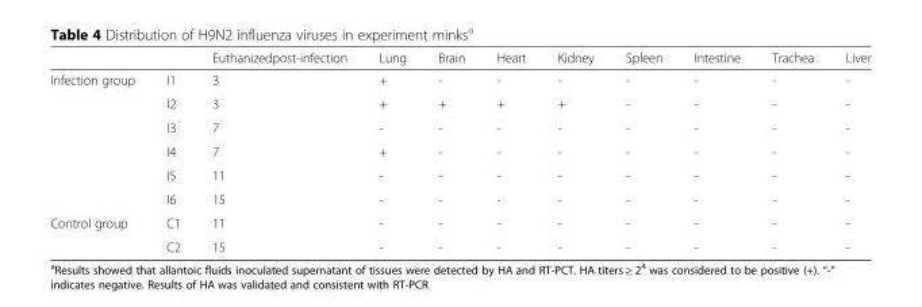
<table><thead><tr><td></td><td></td><td>Euthanizedpost-infection</td><td>Lung</td><td>Brain</td><td>Heart</td><td>Kidney</td><td>Spleen</td><td>Intestine</td><td>Trachea</td><td>Liver</td></tr></thead><tbody><tr><td rowspan="6">Infection group</td><td>I1</td><td>3</td><td>+</td><td>-</td><td>-</td><td>-</td><td>-</td><td>-</td><td>-</td><td>-</td></tr><tr><td>I2</td><td>3</td><td>+</td><td>+</td><td>+</td><td>+</td><td>-</td><td>-</td><td>-</td><td>-</td></tr><tr><td>I3</td><td>7</td><td>-</td><td>-</td><td>-</td><td>-</td><td>-</td><td>-</td><td>-</td><td>-</td></tr><tr><td>I4</td><td>7</td><td>+</td><td>-</td><td>-</td><td>-</td><td>-</td><td>-</td><td>-</td><td>-</td></tr><tr><td>I5</td><td>11</td><td>-</td><td>-</td><td>-</td><td>-</td><td>-</td><td>-</td><td>-</td><td>-</td></tr><tr><td>I6</td><td>15</td><td>-</td><td>-</td><td>-</td><td>-</td><td>-</td><td>-</td><td>-</td><td>-</td></tr><tr><td rowspan="2">Control group</td><td>C1</td><td>11</td><td>-</td><td>-</td><td>-</td><td>-</td><td>-</td><td>-</td><td>-</td><td>-</td></tr><tr><td>C2</td><td>15</td><td>-</td><td>-</td><td>-</td><td>-</td><td>-</td><td>-</td><td>-</td><td>-</td></tr></tbody></table>